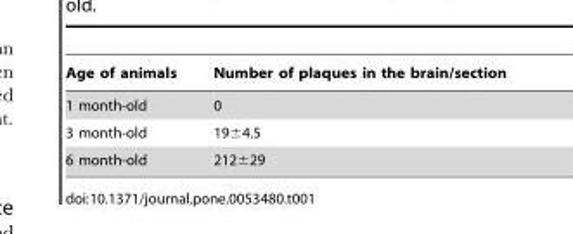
<table><thead><tr><td>Age of animals</td><td>Number of plaques in the brain/section</td></tr></thead><tbody><tr><td>1 month-old</td><td>0</td></tr><tr><td>3 month-old</td><td>19±4.5</td></tr><tr><td>6 month-old</td><td>212±29</td></tr></tbody></table>